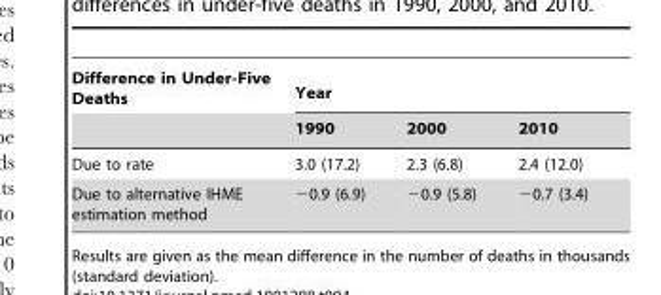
<table><thead><tr><td rowspan="2">Difference in Under-Five Deaths</td><td colspan="3">Year</td></tr><tr><td>1990</td><td>2000</td><td>2010</td></tr></thead><tbody><tr><td>Due to rate</td><td>3.0 (17.2)</td><td>2.3 (6.8)</td><td>2.4 (12.0)</td></tr><tr><td>Due to alternative IHME estimation method</td><td>−0.9 (6.9)</td><td>−0.9 (5.8)</td><td>−0.7 (3.4)</td></tr></tbody></table>